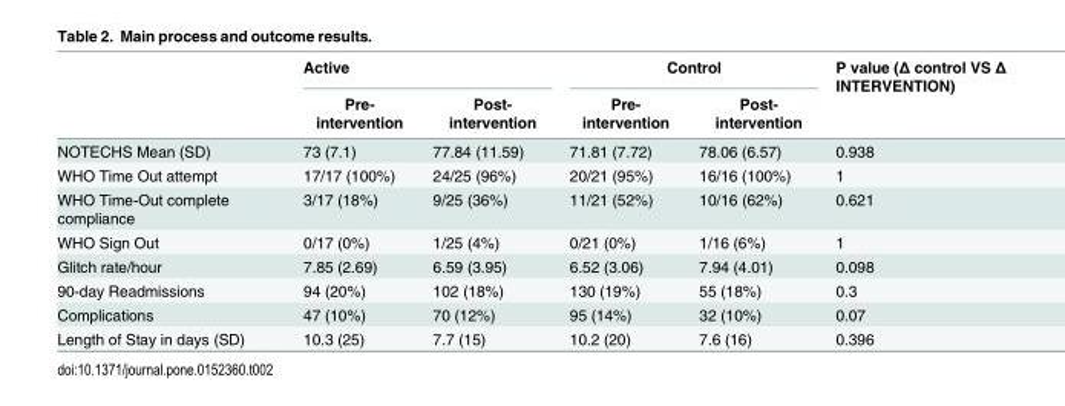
<table><thead><tr><td rowspan="2"></td><td colspan="2">Active</td><td colspan="2">Control</td><td rowspan="2">P value (Δ control VS Δ INTERVENTION)</td></tr><tr><td>Pre- intervention</td><td>Post- intervention</td><td>Pre- intervention</td><td>Post- intervention</td></tr></thead><tbody><tr><td>NOTECHS Mean (SD)</td><td>73 (7.1)</td><td>77.84 (11.59)</td><td>71.81 (7.72)</td><td>78.06 (6.57)</td><td>0.938</td></tr><tr><td>WHO Time Out attempt</td><td>17/17 (100%)</td><td>24/25 (96%)</td><td>20/21 (95%)</td><td>16/16 (100%)</td><td>1</td></tr><tr><td>WHO Time-Out complete compliance</td><td>3/17 (18%)</td><td>9/25 (36%)</td><td>11/21 (52%)</td><td>10/16 (62%)</td><td>0.621</td></tr><tr><td>WHO Sign Out</td><td>0/17 (0%)</td><td>1/25 (4%)</td><td>0/21 (0%)</td><td>1/16 (6%)</td><td>1</td></tr><tr><td>Glitch rate/hour</td><td>7.85 (2.69)</td><td>6.59 (3.95)</td><td>6.52 (3.06)</td><td>7.94 (4.01)</td><td>0.098</td></tr><tr><td>90-day Readmissions</td><td>94 (20%)</td><td>102 (18%)</td><td>130 (19%)</td><td>55 (18%)</td><td>0.3</td></tr><tr><td>Complications</td><td>47 (10%)</td><td>70 (12%)</td><td>95 (14%)</td><td>32 (10%)</td><td>0.07</td></tr><tr><td>Length of Stay in days (SD)</td><td>10.3 (25)</td><td>7.7 (15)</td><td>10.2 (20)</td><td>7.6 (16)</td><td>0.396</td></tr></tbody></table>